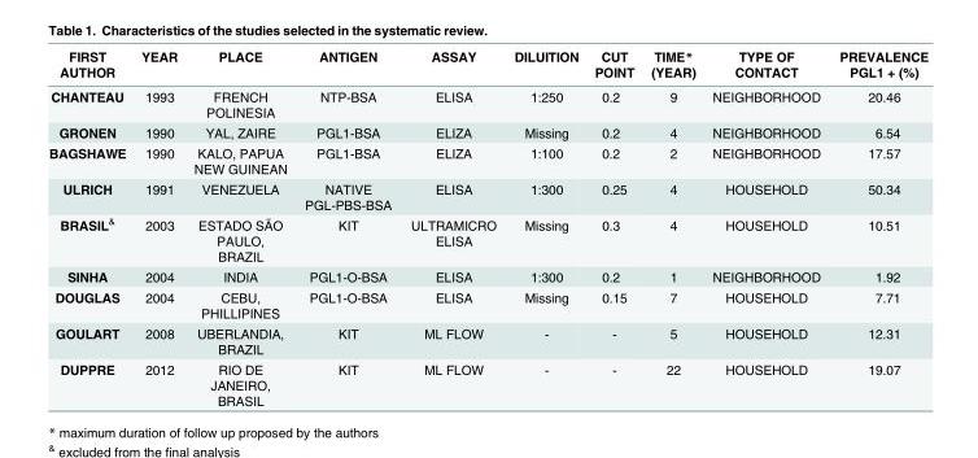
<table><thead><tr><td>FIRST AUTHOR</td><td>YEAR</td><td>PLACE</td><td>ANTIGEN</td><td>ASSAY</td><td>DILUITION</td><td>CUT POINT</td><td>TIME* (YEAR)</td><td>TYPE OF CONTACT</td><td>PREVALENCE PGL1 + (%)</td></tr></thead><tbody><tr><td>CHANTEAU</td><td>1993</td><td>FRENCH POLINESIA</td><td>NTP-BSA</td><td>ELISA</td><td>1:250</td><td>0.2</td><td>9</td><td>NEIGHBORHOOD</td><td>20.46</td></tr><tr><td>GRONEN</td><td>1990</td><td>YAL, ZAIRE</td><td>PGL1-BSA</td><td>ELIZA</td><td>Missing</td><td>0.2</td><td>4</td><td>NEIGHBORHOOD</td><td>6.54</td></tr><tr><td>BAGSHAWE</td><td>1990</td><td>KALO, PAPUA NEW GUINEAN</td><td>PGL1-BSA</td><td>ELIZA</td><td>1:100</td><td>0.2</td><td>2</td><td>NEIGHBORHOOD</td><td>17.57</td></tr><tr><td>ULRICH</td><td>1991</td><td>VENEZUELA</td><td>NATIVE PGL-PBS-BSA</td><td>ELISA</td><td>1:300</td><td>0.25</td><td>4</td><td>HOUSEHOLD</td><td>50.34</td></tr><tr><td>BRASIL<sup>&amp;</sup></td><td>2003</td><td>ESTADO SÃO PAULO, BRAZIL</td><td>KIT</td><td>ULTRAMICRO ELISA</td><td>Missing</td><td>0.3</td><td>4</td><td>HOUSEHOLD</td><td>10.51</td></tr><tr><td>SINHA</td><td>2004</td><td>INDIA</td><td>PGL1-O-BSA</td><td>ELISA</td><td>1:300</td><td>0.2</td><td>1</td><td>NEIGHBORHOOD</td><td>1.92</td></tr><tr><td>DOUGLAS</td><td>2004</td><td>CEBU, PHILLIPINES</td><td>PGL1-O-BSA</td><td>ELISA</td><td>Missing</td><td>0.15</td><td>7</td><td>HOUSEHOLD</td><td>7.71</td></tr><tr><td>GOULART</td><td>2008</td><td>UBERLANDIA, BRAZIL</td><td>KIT</td><td>ML FLOW</td><td>-</td><td>-</td><td>5</td><td>HOUSEHOLD</td><td>12.31</td></tr><tr><td>DUPPRE</td><td>2012</td><td>RIO DE JANEIRO, BRASIL</td><td>KIT</td><td>ML FLOW</td><td>-</td><td>-</td><td>22</td><td>HOUSEHOLD</td><td>19.07</td></tr></tbody></table>